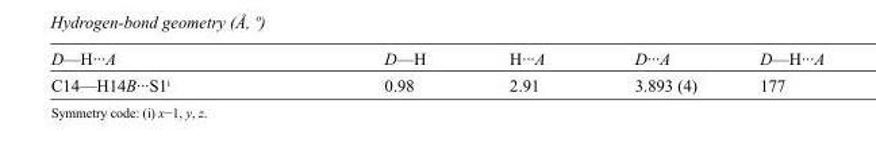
<table><tbody><tr><td>D—H···A</td><td>D—H</td><td>H···A</td><td>D···A</td><td>D—H···A</td></tr><tr><td>C14—H14B···S1<sup>i</sup></td><td>0.98</td><td>2.91</td><td>3.893 (4)</td><td>177</td></tr></tbody></table>